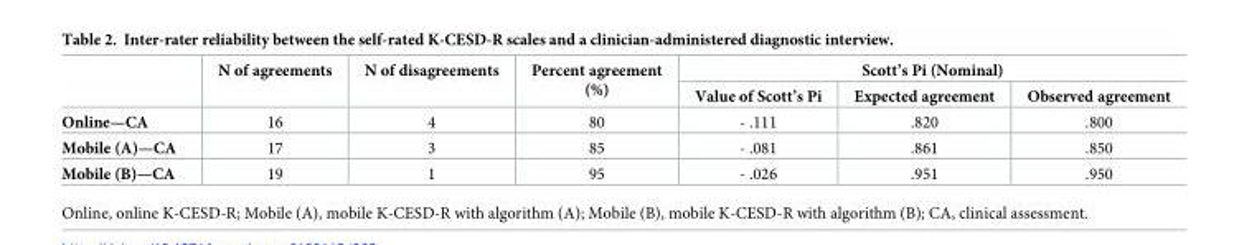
<table><thead><tr><td rowspan="2"></td><td rowspan="2">N of agreements</td><td rowspan="2">N of disagreements</td><td rowspan="2">Percent agreement (%)</td><td colspan="3">Scott’s Pi (Nominal)</td></tr><tr><td>Value of Scott’s Pi</td><td>Expected agreement</td><td>Observed agreement</td></tr></thead><tbody><tr><td>Online—CA</td><td>16</td><td>4</td><td>80</td><td>- .111</td><td>.820</td><td>.800</td></tr><tr><td>Mobile (A)—CA</td><td>17</td><td>3</td><td>85</td><td>- .081</td><td>.861</td><td>.850</td></tr><tr><td>Mobile (B)—CA</td><td>19</td><td>1</td><td>95</td><td>- .026</td><td>.951</td><td>.950</td></tr></tbody></table>